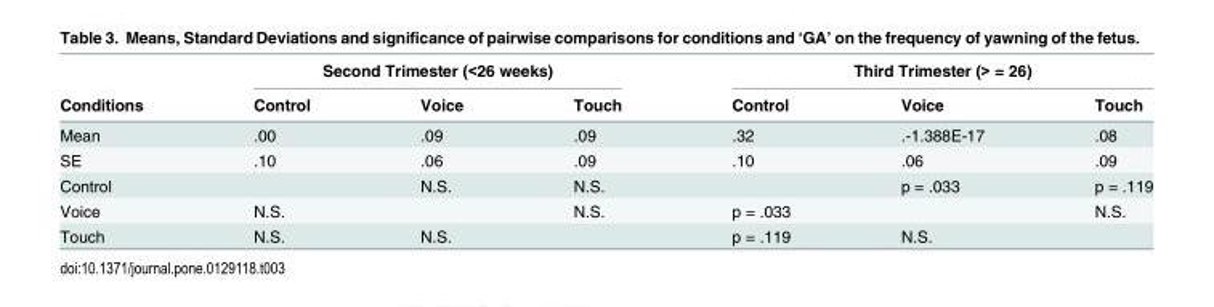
<table><thead><tr><td rowspan="2">Conditions</td><td colspan="3">Second Trimester (&lt;26 weeks)</td><td colspan="3">Third Trimester (&gt; = 26)</td></tr><tr><td>Control</td><td>Voice</td><td>Touch</td><td>Control</td><td>Voice</td><td>Touch</td></tr></thead><tbody><tr><td>Mean</td><td>.00</td><td>.09</td><td>.09</td><td>.32</td><td>.-1.388E-17</td><td>.08</td></tr><tr><td>SE</td><td>.10</td><td>.06</td><td>.09</td><td>.10</td><td>.06</td><td>.09</td></tr><tr><td>Control</td><td></td><td>N.S.</td><td>N.S.</td><td></td><td>p = .033</td><td>p = .119</td></tr><tr><td>Voice</td><td>N.S.</td><td></td><td>N.S.</td><td>p = .033</td><td></td><td>N.S.</td></tr><tr><td>Touch</td><td>N.S.</td><td>N.S.</td><td></td><td>p = .119</td><td>N.S.</td><td></td></tr></tbody></table>